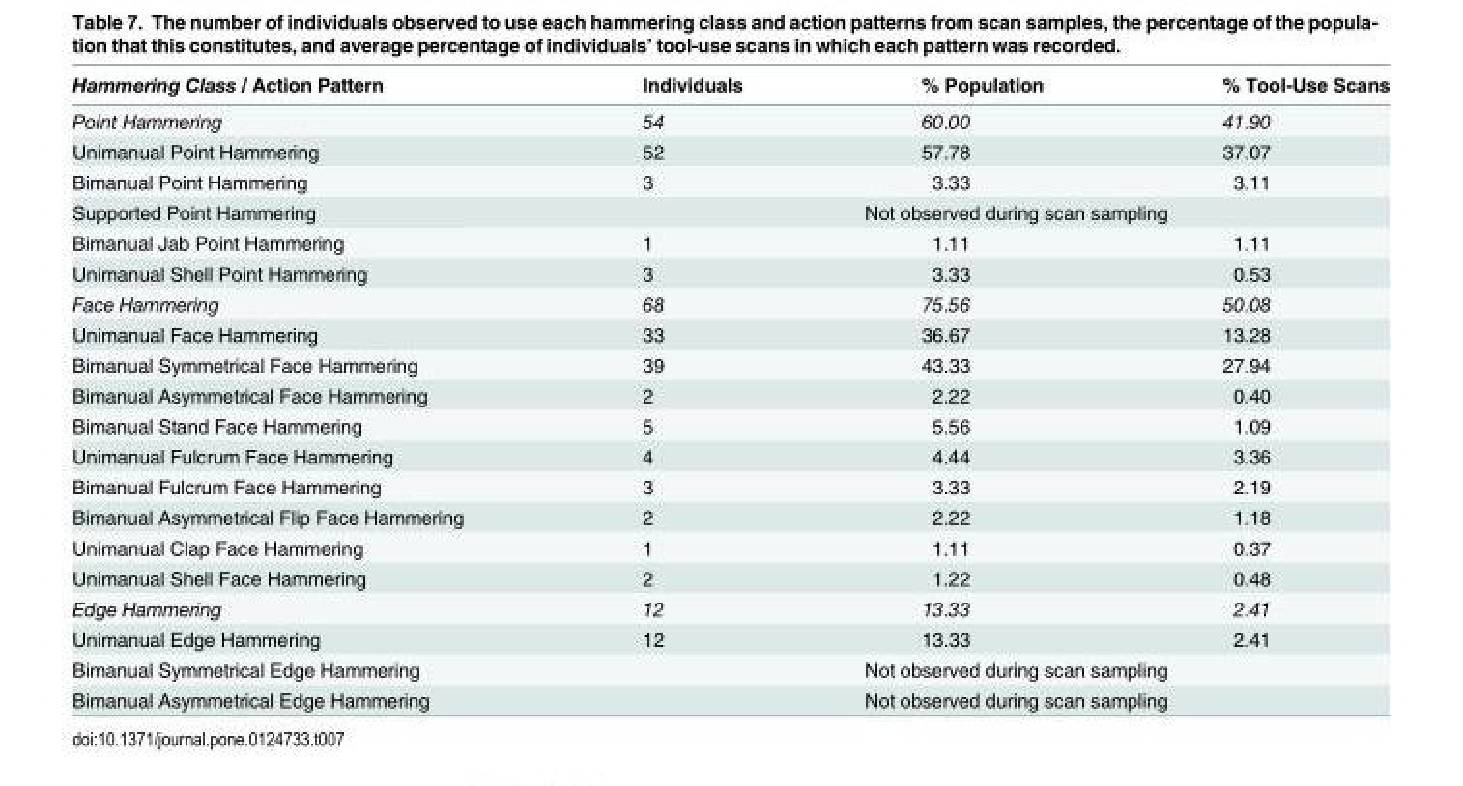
<table><thead><tr><td>Hammering Class / Action Pattern</td><td>Individuals</td><td>% Population</td><td>% Tool-Use Scans</td></tr></thead><tbody><tr><td>Point Hammering</td><td>54</td><td>60.00</td><td>41.90</td></tr><tr><td>Unimanual Point Hammering</td><td>52</td><td>57.78</td><td>37.07</td></tr><tr><td>Bimanual Point Hammering</td><td>3</td><td>3.33</td><td>3.11</td></tr><tr><td>Supported Point Hammering</td><td colspan="3">Not observed during scan sampling</td></tr><tr><td>Bimanual Jab Point Hammering</td><td>1</td><td>1.11</td><td>1.11</td></tr><tr><td>Unimanual Shell Point Hammering</td><td>3</td><td>3.33</td><td>0.53</td></tr><tr><td>Face Hammering</td><td>68</td><td>75.56</td><td>50.08</td></tr><tr><td>Unimanual Face Hammering</td><td>33</td><td>36.67</td><td>13.28</td></tr><tr><td>Bimanual Symmetrical Face Hammering</td><td>39</td><td>43.33</td><td>27.94</td></tr><tr><td>Bimanual Asymmetrical Face Hammering</td><td>2</td><td>2.22</td><td>0.40</td></tr><tr><td>Bimanual Stand Face Hammering</td><td>5</td><td>5.56</td><td>1.09</td></tr><tr><td>Unimanual Fulcrum Face Hammering</td><td>4</td><td>4.44</td><td>3.36</td></tr><tr><td>Bimanual Fulcrum Face Hammering</td><td>3</td><td>3.33</td><td>2.19</td></tr><tr><td>Bimanual Asymmetrical Flip Face Hammering</td><td>2</td><td>2.22</td><td>1.18</td></tr><tr><td>Unimanual Clap Face Hammering</td><td>1</td><td>1.11</td><td>0.37</td></tr><tr><td>Unimanual Shell Face Hammering</td><td>2</td><td>1.22</td><td>0.48</td></tr><tr><td>Edge Hammering</td><td>12</td><td>13.33</td><td>2.41</td></tr><tr><td>Unimanual Edge Hammering</td><td>12</td><td>13.33</td><td>2.41</td></tr><tr><td>Bimanual Symmetrical Edge Hammering</td><td colspan="3">Not observed during scan sampling</td></tr><tr><td>Bimanual Asymmetrical Edge Hammering</td><td colspan="3">Not observed during scan sampling</td></tr></tbody></table>